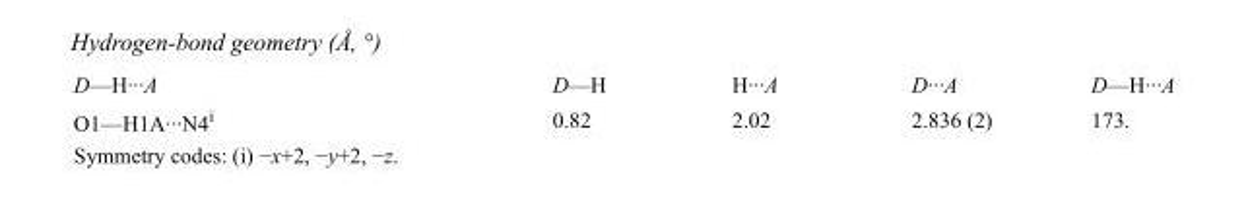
<table><tbody><tr><td>D—H···A</td><td>D—H</td><td>H···A</td><td>D···A</td><td>D—H···A</td></tr><tr><td>O1—H1A···N4<sup>i</sup></td><td>0.82</td><td>2.02</td><td>2.836 (2)</td><td>173.</td></tr></tbody></table>